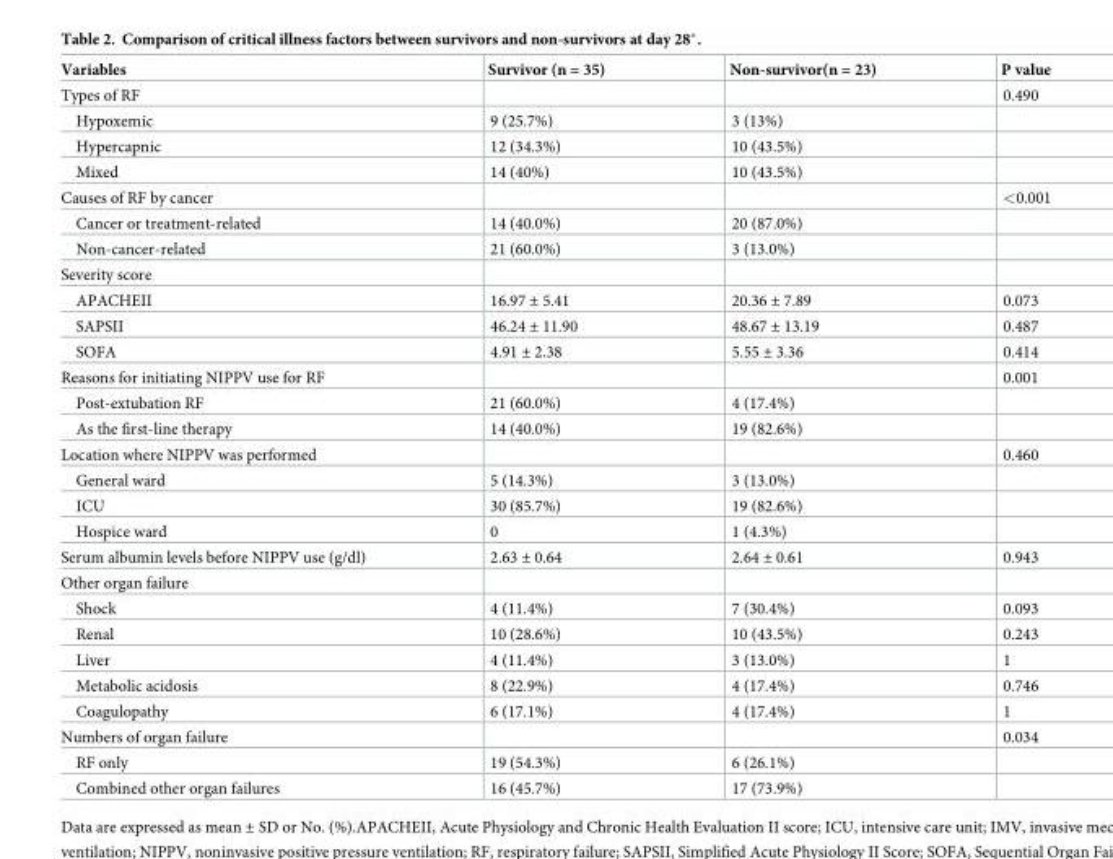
<table><thead><tr><td>Variables</td><td>Survivor (n = 35)</td><td>Non-survivor(n = 23)</td><td>P value</td></tr></thead><tbody><tr><td>Types of RF</td><td></td><td></td><td>0.490</td></tr><tr><td>Hypoxemic</td><td>9 (25.7%)</td><td>3 (13%)</td><td></td></tr><tr><td>Hypercapnic</td><td>12 (34.3%)</td><td>10 (43.5%)</td><td></td></tr><tr><td>Mixed</td><td>14 (40%)</td><td>10 (43.5%)</td><td></td></tr><tr><td>Causes of RF by cancer</td><td></td><td></td><td>&lt;0.001</td></tr><tr><td>Cancer or treatment-related</td><td>14 (40.0%)</td><td>20 (87.0%)</td><td></td></tr><tr><td>Non-cancer-related</td><td>21 (60.0%)</td><td>3 (13.0%)</td><td></td></tr><tr><td colspan="4">Severity score</td></tr><tr><td>APACHEII</td><td>16.97 ± 5.41</td><td>20.36 ± 7.89</td><td>0.073</td></tr><tr><td>SAPSII</td><td>46.24 ± 11.90</td><td>48.67 ± 13.19</td><td>0.487</td></tr><tr><td>SOFA</td><td>4.91 ± 2.38</td><td>5.55 ± 3.36</td><td>0.414</td></tr><tr><td>Reasons for initiating NIPPV use for RF</td><td></td><td></td><td>0.001</td></tr><tr><td>Post-extubation RF</td><td>21 (60.0%)</td><td>4 (17.4%)</td><td></td></tr><tr><td>As the first-line therapy</td><td>14 (40.0%)</td><td>19 (82.6%)</td><td></td></tr><tr><td>Location where NIPPV was performed</td><td></td><td></td><td>0.460</td></tr><tr><td>General ward</td><td>5 (14.3%)</td><td>3 (13.0%)</td><td></td></tr><tr><td>ICU</td><td>30 (85.7%)</td><td>19 (82.6%)</td><td></td></tr><tr><td>Hospice ward</td><td>0</td><td>1 (4.3%)</td><td></td></tr><tr><td>Serum albumin levels before NIPPV use (g/dl)</td><td>2.63 ± 0.64</td><td>2.64 ± 0.61</td><td>0.943</td></tr><tr><td colspan="4">Other organ failure</td></tr><tr><td>Shock</td><td>4 (11.4%)</td><td>7 (30.4%)</td><td>0.093</td></tr><tr><td>Renal</td><td>10 (28.6%)</td><td>10 (43.5%)</td><td>0.243</td></tr><tr><td>Liver</td><td>4 (11.4%)</td><td>3 (13.0%)</td><td>1</td></tr><tr><td>Metabolic acidosis</td><td>8 (22.9%)</td><td>4 (17.4%)</td><td>0.746</td></tr><tr><td>Coagulopathy</td><td>6 (17.1%)</td><td>4 (17.4%)</td><td>1</td></tr><tr><td>Numbers of organ failure</td><td></td><td></td><td>0.034</td></tr><tr><td>RF only</td><td>19 (54.3%)</td><td>6 (26.1%)</td><td></td></tr><tr><td>Combined other organ failures</td><td>16 (45.7%)</td><td>17 (73.9%)</td><td></td></tr></tbody></table>